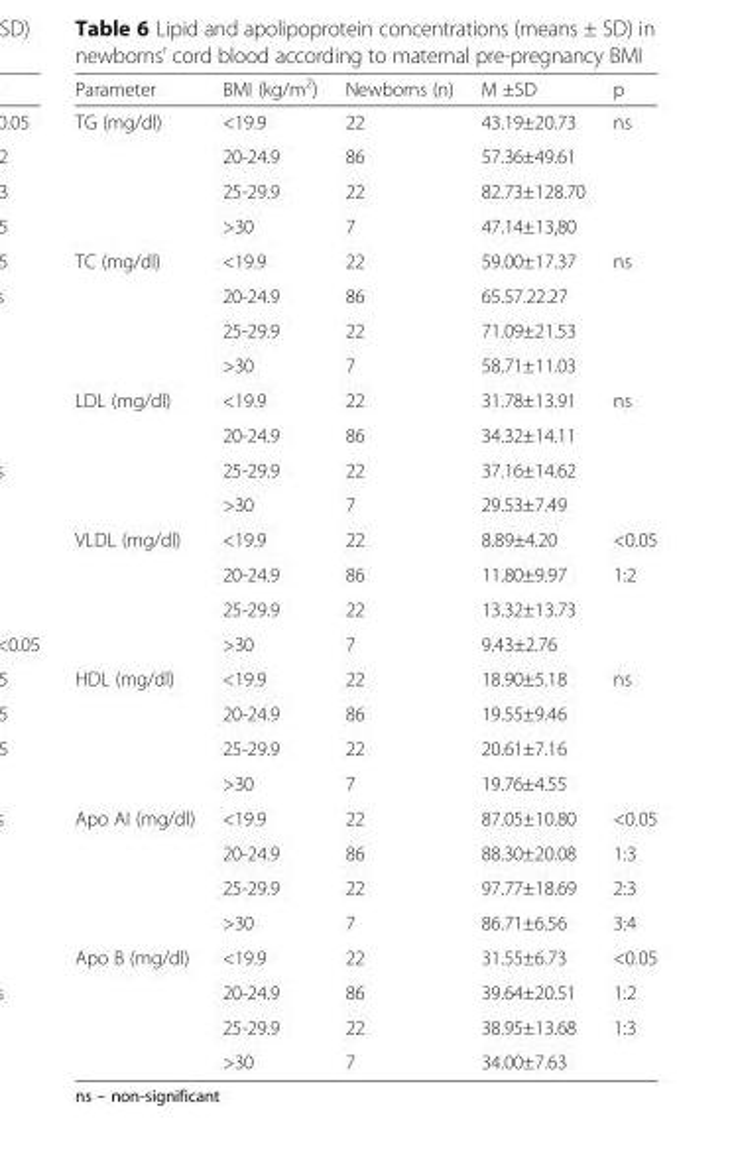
<table><thead><tr><td>Parameter</td><td>BMI (kg/m<sup>2</sup>)</td><td>Newborns (n)</td><td>M ±SD</td><td>p</td></tr></thead><tbody><tr><td rowspan="4">TG (mg/dl)</td><td>&lt;19.9</td><td>22</td><td>43.19±20.73</td><td rowspan="4">ns</td></tr><tr><td>20-24.9</td><td>86</td><td>57.36±49.61</td></tr><tr><td>25-29.9</td><td>22</td><td>82.73±128.70</td></tr><tr><td>&gt;30</td><td>7</td><td>47.14±13,80</td></tr><tr><td rowspan="4">TC (mg/dl)</td><td>&lt;19.9</td><td>22</td><td>59.00±17.37</td><td rowspan="4">ns</td></tr><tr><td>20-24.9</td><td>86</td><td>65.57.22.27</td></tr><tr><td>25-29.9</td><td>22</td><td>71.09±21.53</td></tr><tr><td>&gt;30</td><td>7</td><td>58.71±11.03</td></tr><tr><td rowspan="4">LDL (mg/dl)</td><td>&lt;19.9</td><td>22</td><td>31.78±13.91</td><td rowspan="4">ns</td></tr><tr><td>20-24.9</td><td>86</td><td>34.32±14.11</td></tr><tr><td>25-29.9</td><td>22</td><td>37.16±14.62</td></tr><tr><td>&gt;30</td><td>7</td><td>29.53±7.49</td></tr><tr><td rowspan="4">VLDL (mg/dl)</td><td>&lt;19.9</td><td>22</td><td>8.89±4.20</td><td>&lt;0.05</td></tr><tr><td>20-24.9</td><td>86</td><td>11.80±9.97</td><td rowspan="3">1:2</td></tr><tr><td>25-29.9</td><td>22</td><td>13.32±13.73</td></tr><tr><td>&gt;30</td><td>7</td><td>9.43±2.76</td></tr><tr><td rowspan="4">HDL (mg/dl)</td><td>&lt;19.9</td><td>22</td><td>18.90±5.18</td><td rowspan="4">ns</td></tr><tr><td>20-24.9</td><td>86</td><td>19.55±9.46</td></tr><tr><td>25-29.9</td><td>22</td><td>20.61±7.16</td></tr><tr><td>&gt;30</td><td>7</td><td>19.76±4.55</td></tr><tr><td rowspan="4">Apo AI (mg/dl)</td><td>&lt;19.9</td><td>22</td><td>87.05±10.80</td><td>&lt;0.05</td></tr><tr><td>20-24.9</td><td>86</td><td>88.30±20.08</td><td>1:3</td></tr><tr><td>25-29.9</td><td>22</td><td>97.77±18.69</td><td>2:3</td></tr><tr><td>&gt;30</td><td>7</td><td>86.71±6.56</td><td>3:4</td></tr><tr><td rowspan="4">Apo B (mg/dl)</td><td>&lt;19.9</td><td>22</td><td>31.55±6.73</td><td>&lt;0.05</td></tr><tr><td>20-24.9</td><td>86</td><td>39.64±20.51</td><td>1:2</td></tr><tr><td>25-29.9</td><td>22</td><td>38.95±13.68</td><td rowspan="2">1:3</td></tr><tr><td>&gt;30</td><td>7</td><td>34.00±7.63</td></tr></tbody></table>